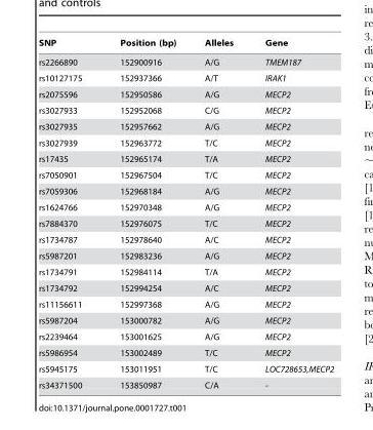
<table><thead><tr><td>SNP</td><td>Position (bp)</td><td>Alleles</td><td>Gene</td></tr></thead><tbody><tr><td>rs2266890</td><td>152900916</td><td>A/G</td><td>TMEM187</td></tr><tr><td>rs10127175</td><td>152937366</td><td>A/T</td><td>IRAK1</td></tr><tr><td>rs2075596</td><td>152950586</td><td>A/G</td><td>MECP2</td></tr><tr><td>rs3027933</td><td>152952068</td><td>C/G</td><td>MECP2</td></tr><tr><td>rs3027935</td><td>152957662</td><td>A/G</td><td>MECP2</td></tr><tr><td>rs3027939</td><td>152963772</td><td>T/C</td><td>MECP2</td></tr><tr><td>rs17435</td><td>152965174</td><td>T/A</td><td>MECP2</td></tr><tr><td>rs7050901</td><td>152967504</td><td>T/C</td><td>MECP2</td></tr><tr><td>rs7059306</td><td>152968184</td><td>A/G</td><td>MECP2</td></tr><tr><td>rs1624766</td><td>152970348</td><td>A/G</td><td>MECP2</td></tr><tr><td>rs7884370</td><td>152976075</td><td>T/C</td><td>MECP2</td></tr><tr><td>rs1734787</td><td>152978640</td><td>A/C</td><td>MECP2</td></tr><tr><td>rs5987201</td><td>152983236</td><td>A/G</td><td>MECP2</td></tr><tr><td>rs1734791</td><td>152984114</td><td>T/A</td><td>MECP2</td></tr><tr><td>rs1734792</td><td>152994254</td><td>A/C</td><td>MECP2</td></tr><tr><td>rs11156611</td><td>152997368</td><td>A/G</td><td>MECP2</td></tr><tr><td>rs5987204</td><td>153000782</td><td>A/G</td><td>MECP2</td></tr><tr><td>rs2239464</td><td>153001625</td><td>A/G</td><td>MECP2</td></tr><tr><td>rs5986954</td><td>153002489</td><td>T/C</td><td>MECP2</td></tr><tr><td>rs5945175</td><td>153011951</td><td>T/C</td><td>LOC728653,MECP2</td></tr><tr><td>rs34371500</td><td>153850987</td><td>C/A</td><td>-</td></tr></tbody></table>